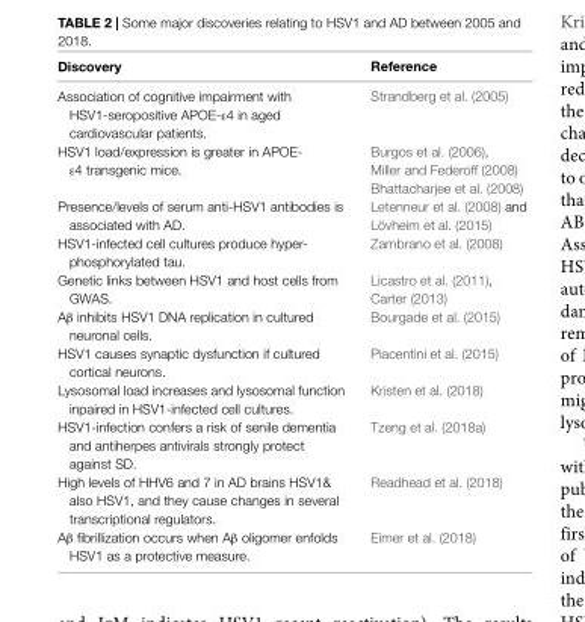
<table><thead><tr><td>Discovery</td><td>Reference</td></tr></thead><tbody><tr><td>Association of cognitive impairment with HSV1-seropositive APOE-ε4 in aged cardiovascular patients.</td><td>Strandberg et al. (2005)</td></tr><tr><td>HSV1 load/expression is greater in APOE- ε4 transgenic mice.</td><td>Burgos et al. (2006), Miller and Federoff (2008) Bhattacharjee et al. (2008)</td></tr><tr><td>Presence/levels of serum anti-HSV1 antibodies is associated with AD.</td><td>Letenneur et al. (2008) and Lövheim et al. (2015)</td></tr><tr><td>HSV1-infected cell cultures produce hyper- phosphorylated tau.</td><td>Zambrano et al. (2008)</td></tr><tr><td>Genetic links between HSV1 and host cells from GWAS.</td><td>Licastro et al. (2011), Carter (2013)</td></tr><tr><td>Aβ inhibits HSV1 DNA replication in cultured neuronal cells.</td><td>Bourgade et al. (2015)</td></tr><tr><td>HSV1 causes synaptic dysfunction if cultured cortical neurons.</td><td>Piacentini et al. (2015)</td></tr><tr><td>Lysosomal load increases and lysosomal function inpaired in HSV1-infected cell cultures.</td><td>Kristen et al. (2018)</td></tr><tr><td>HSV1-infection confers a risk of senile dementia and antiherpes antivirals strongly protect against SD.</td><td>Tzeng et al. (2018a)</td></tr><tr><td>High levels of HHV6 and 7 in AD brains HSV1&amp; also HSV1, and they cause changes in several transcriptional regulators.</td><td>Readhead et al. (2018)</td></tr><tr><td>Aβ fibrillization occurs when Aβ oligomer enfolds HSV1 as a protective measure.</td><td>Eimer et al. (2018)</td></tr></tbody></table>